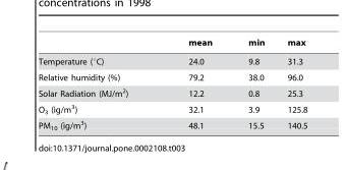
<table><thead><tr><td></td><td>mean</td><td>min</td><td>max</td></tr></thead><tbody><tr><td>Temperature (°C)</td><td>24.0</td><td>9.8</td><td>31.3</td></tr><tr><td>Relative humidity (%)</td><td>79.2</td><td>38.0</td><td>96.0</td></tr><tr><td>Solar Radiation (MJ/m<sup>2</sup>)</td><td>12.2</td><td>0.8</td><td>25.3</td></tr><tr><td>O3 (ı`g/m3)</td><td>32.1</td><td>3.9</td><td>125.8</td></tr><tr><td>PM10 (ı`g/m3)</td><td>48.1</td><td>15.5</td><td>140.5</td></tr></tbody></table>